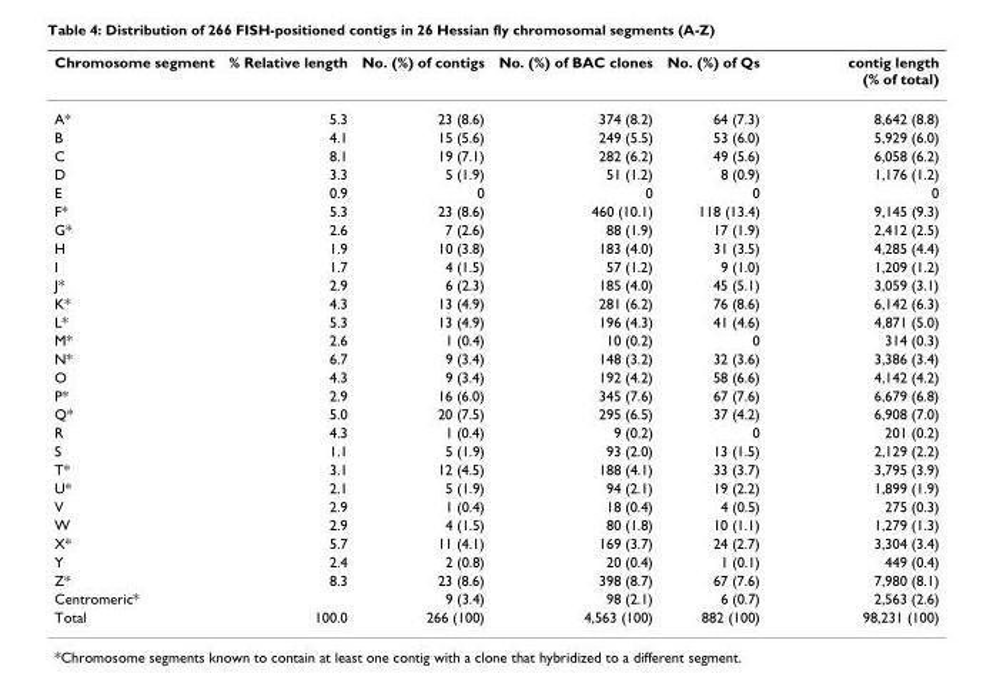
<table><thead><tr><td>Chromosome segment</td><td>% Relative length</td><td>No. (%) of contigs</td><td>No. (%) of BAC clones</td><td>No. (%) of Qs</td><td>contig length (% of total)</td></tr></thead><tbody><tr><td>A*</td><td>5.3</td><td>23 (8.6)</td><td>374 (8.2)</td><td>64 (7.3)</td><td>8,642 (8.8)</td></tr><tr><td>B</td><td>4.1</td><td>15 (5.6)</td><td>249 (5.5)</td><td>53 (6.0)</td><td>5,929 (6.0)</td></tr><tr><td>C</td><td>8.1</td><td>19 (7.1)</td><td>282 (6.2)</td><td>49 (5.6)</td><td>6,058 (6.2)</td></tr><tr><td>D</td><td>3.3</td><td>5 (1.9)</td><td>51 (1.2)</td><td>8 (0.9)</td><td>1,176 (1.2)</td></tr><tr><td>E</td><td>0.9</td><td>0</td><td>0</td><td>0</td><td>0</td></tr><tr><td>F*</td><td>5.3</td><td>23 (8.6)</td><td>460 (10.1)</td><td>118 (13.4)</td><td>9,145 (9.3)</td></tr><tr><td>G*</td><td>2.6</td><td>7 (2.6)</td><td>88 (1.9)</td><td>17 (1.9)</td><td>2,412 (2.5)</td></tr><tr><td>H</td><td>1.9</td><td>10 (3.8)</td><td>183 (4.0)</td><td>31 (3.5)</td><td>4,285 (4.4)</td></tr><tr><td>I</td><td>1.7</td><td>4 (1.5)</td><td>57 (1.2)</td><td>9 (1.0)</td><td>1,209 (1.2)</td></tr><tr><td>J*</td><td>2.9</td><td>6 (2.3)</td><td>185 (4.0)</td><td>45 (5.1)</td><td>3,059 (3.1)</td></tr><tr><td>K*</td><td>4.3</td><td>13 (4.9)</td><td>281 (6.2)</td><td>76 (8.6)</td><td>6,142 (6.3)</td></tr><tr><td>L*</td><td>5.3</td><td>13 (4.9)</td><td>196 (4.3)</td><td>41 (4.6)</td><td>4,871 (5.0)</td></tr><tr><td>M*</td><td>2.6</td><td>1 (0.4)</td><td>10 (0.2)</td><td>0</td><td>314 (0.3)</td></tr><tr><td>N*</td><td>6.7</td><td>9 (3.4)</td><td>148 (3.2)</td><td>32 (3.6)</td><td>3,386 (3.4)</td></tr><tr><td>O</td><td>4.3</td><td>9 (3.4)</td><td>192 (4.2)</td><td>58 (6.6)</td><td>4,142 (4.2)</td></tr><tr><td>P*</td><td>2.9</td><td>16 (6.0)</td><td>345 (7.6)</td><td>67 (7.6)</td><td>6,679 (6.8)</td></tr><tr><td>Q*</td><td>5.0</td><td>20 (7.5)</td><td>295 (6.5)</td><td>37 (4.2)</td><td>6,908 (7.0)</td></tr><tr><td>R</td><td>4.3</td><td>1 (0.4)</td><td>9 (0.2)</td><td>0</td><td>201 (0.2)</td></tr><tr><td>S</td><td>1.1</td><td>5 (1.9)</td><td>93 (2.0)</td><td>13 (1.5)</td><td>2,129 (2.2)</td></tr><tr><td>T*</td><td>3.1</td><td>12 (4.5)</td><td>188 (4.1)</td><td>33 (3.7)</td><td>3,795 (3.9)</td></tr><tr><td>U*</td><td>2.1</td><td>5 (1.9)</td><td>94 (2.1)</td><td>19 (2.2)</td><td>1,899 (1.9)</td></tr><tr><td>V</td><td>2.9</td><td>1 (0.4)</td><td>18 (0.4)</td><td>4 (0.5)</td><td>275 (0.3)</td></tr><tr><td>W</td><td>2.9</td><td>4 (1.5)</td><td>80 (1.8)</td><td>10 (1.1)</td><td>1,279 (1.3)</td></tr><tr><td>X*</td><td>5.7</td><td>11 (4.1)</td><td>169 (3.7)</td><td>24 (2.7)</td><td>3,304 (3.4)</td></tr><tr><td>Y</td><td>2.4</td><td>2 (0.8)</td><td>20 (0.4)</td><td>1 (0.1)</td><td>449 (0.4)</td></tr><tr><td>Z*</td><td>8.3</td><td>23 (8.6)</td><td>398 (8.7)</td><td>67 (7.6)</td><td>7,980 (8.1)</td></tr><tr><td>Centromeric*</td><td></td><td>9 (3.4)</td><td>98 (2.1)</td><td>6 (0.7)</td><td>2,563 (2.6)</td></tr><tr><td>Total</td><td>100.0</td><td>266 (100)</td><td>4,563 (100)</td><td>882 (100)</td><td>98,231 (100)</td></tr></tbody></table>